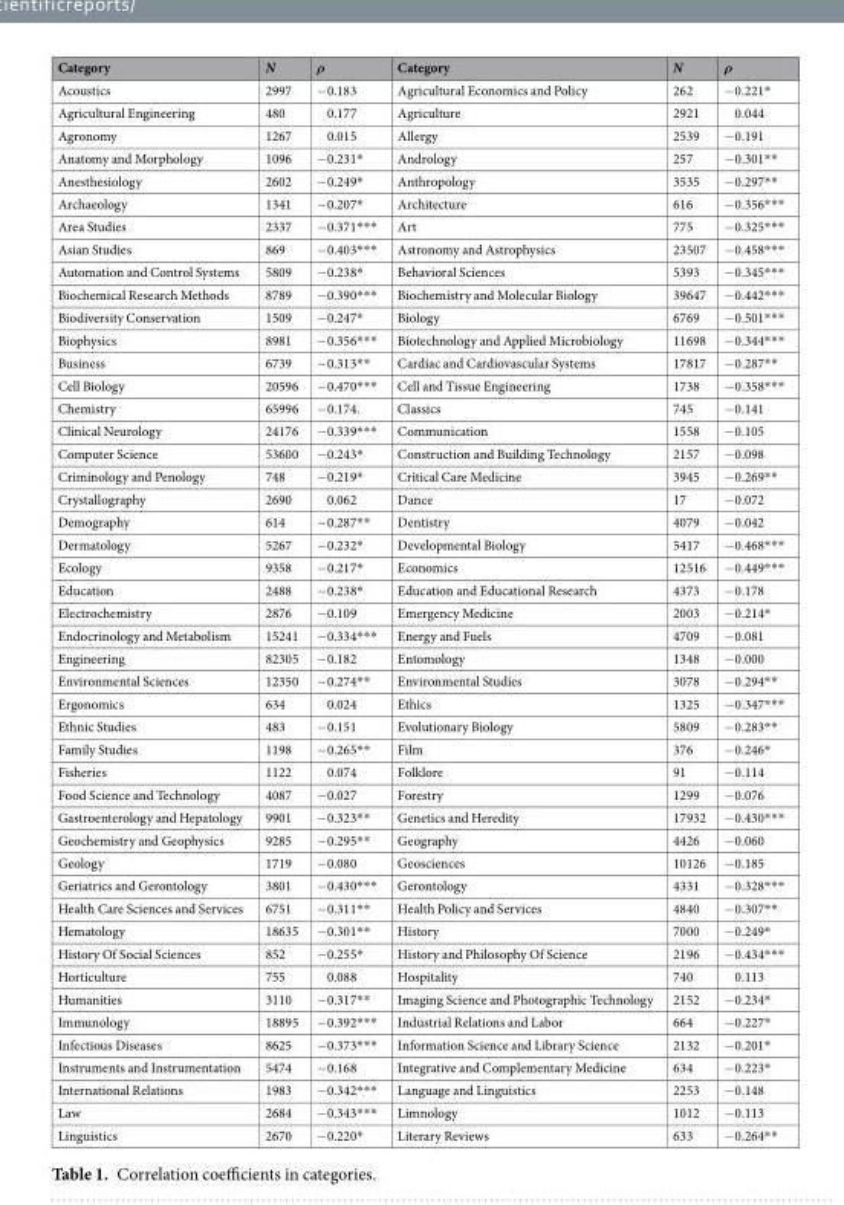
<table><thead><tr><td>Category</td><td>N</td><td>ρ</td><td>Category</td><td>N</td><td>ρ</td></tr></thead><tbody><tr><td>Acoustics</td><td>2997</td><td>−0.183</td><td>Agricultural Economics and Policy</td><td>262</td><td>−0.221*</td></tr><tr><td>Agricultural Engineering</td><td>480</td><td>0.177</td><td>Agriculture</td><td>2921</td><td>0.044</td></tr><tr><td>Agronomy</td><td>1267</td><td>0.015</td><td>Allergy</td><td>2539</td><td>−0.191</td></tr><tr><td>Anatomy and Morphology</td><td>1096</td><td>−0.231*</td><td>Andrology</td><td>257</td><td>−0.301**</td></tr><tr><td>Anesthesiology</td><td>2602</td><td>−0.249*</td><td>Anthropology</td><td>3535</td><td>−0.297**</td></tr><tr><td>Archaeology</td><td>1341</td><td>−0.207*</td><td>Architecture</td><td>616</td><td>−0.356***</td></tr><tr><td>Area Studies</td><td>2337</td><td>−0.371***</td><td>Art</td><td>775</td><td>−0.325***</td></tr><tr><td>Asian Studies</td><td>869</td><td>−0.403***</td><td>Astronomy and Astrophysics</td><td>23507</td><td>−0.458***</td></tr><tr><td>Automation and Control Systems</td><td>5809</td><td>−0.238*</td><td>Behavioral Sciences</td><td>5393</td><td>−0.345***</td></tr><tr><td>Biochemical Research Methods</td><td>8789</td><td>−0.390***</td><td>Biochemistry and Molecular Biology</td><td>39647</td><td>−0.442***</td></tr><tr><td>Biodiversity Conservation</td><td>1509</td><td>−0.247*</td><td>Biology</td><td>6769</td><td>−0.501***</td></tr><tr><td>Biophysics</td><td>8981</td><td>−0.356***</td><td>Biotechnology and Applied Microbiology</td><td>11698</td><td>−0.344***</td></tr><tr><td>Business</td><td>6739</td><td>−0.313**</td><td>Cardiac and Cardiovascular Systems</td><td>17817</td><td>−0.287**</td></tr><tr><td>Cell Biology</td><td>20596</td><td>−0.470***</td><td>Cell and Tissue Engineering</td><td>1738</td><td>−0.358***</td></tr><tr><td>Chemistry</td><td>65996</td><td>−0.174.</td><td>Classics</td><td>745</td><td>−0.141</td></tr><tr><td>Clinical Neurology</td><td>24176</td><td>−0.339***</td><td>Communication</td><td>1558</td><td>−0.105</td></tr><tr><td>Computer Science</td><td>53600</td><td>−0.243*</td><td>Construction and Building Technology</td><td>2157</td><td>−0.098</td></tr><tr><td>Criminology and Penology</td><td>748</td><td>−0.219*</td><td>Critical Care Medicine</td><td>3945</td><td>−0.269**</td></tr><tr><td>Crystallography</td><td>2690</td><td>0.062</td><td>Dance</td><td>17</td><td>−0.072</td></tr><tr><td>Demography</td><td>614</td><td>−0.287**</td><td>Dentistry</td><td>4079</td><td>−0.042</td></tr><tr><td>Dermatology</td><td>5267</td><td>−0.232*</td><td>Developmental Biology</td><td>5417</td><td>−0.468***</td></tr><tr><td>Ecology</td><td>9358</td><td>−0.217*</td><td>Economics</td><td>12516</td><td>−0.449***</td></tr><tr><td>Education</td><td>2488</td><td>−0.238*</td><td>Education and Educational Research</td><td>4373</td><td>−0.178</td></tr><tr><td>Electrochemistry</td><td>2876</td><td>−0.109</td><td>Emergency Medicine</td><td>2003</td><td>−0.214*</td></tr><tr><td>Endocrinology and Metabolism</td><td>15241</td><td>−0.334***</td><td>Energy and Fuels</td><td>4709</td><td>−0.081</td></tr><tr><td>Engineering</td><td>82305</td><td>−0.182</td><td>Entomology</td><td>1348</td><td>−0.000</td></tr><tr><td>Environmental Sciences</td><td>12350</td><td>−0.274**</td><td>Environmental Studies</td><td>3078</td><td>−0.294**</td></tr><tr><td>Ergonomics</td><td>634</td><td>0.024</td><td>Ethics</td><td>1325</td><td>−0.347***</td></tr><tr><td>Ethnic Studies</td><td>483</td><td>−0.151</td><td>Evolutionary Biology</td><td>5809</td><td>−0.283**</td></tr><tr><td>Family Studies</td><td>1198</td><td>−0.265**</td><td>Film</td><td>376</td><td>−0.246*</td></tr><tr><td>Fisheries</td><td>1122</td><td>0.074</td><td>Folklore</td><td>91</td><td>−0.114</td></tr><tr><td>Food Science and Technology</td><td>4087</td><td>−0.027</td><td>Forestry</td><td>1299</td><td>−0.076</td></tr><tr><td>Gastroenterology and Hepatology</td><td>9901</td><td>−0.323**</td><td>Genetics and Heredity</td><td>17932</td><td>−0.430***</td></tr><tr><td>Geochemistry and Geophysics</td><td>9285</td><td>−0.295**</td><td>Geography</td><td>4426</td><td>−0.060</td></tr><tr><td>Geology</td><td>1719</td><td>−0.080</td><td>Geosciences</td><td>10126</td><td>−0.185</td></tr><tr><td>Geriatrics and Gerontology</td><td>3801</td><td>−0.430***</td><td>Gerontology</td><td>4331</td><td>−0.328***</td></tr><tr><td>Health Care Sciences and Services</td><td>6751</td><td>−0.311**</td><td>Health Policy and Services</td><td>4840</td><td>−0.307**</td></tr><tr><td>Hematology</td><td>18635</td><td>−0.301**</td><td>History</td><td>7000</td><td>−0.249*</td></tr><tr><td>History Of Social Sciences</td><td>852</td><td>−0.255*</td><td>History and Philosophy Of Science</td><td>2196</td><td>−0.434***</td></tr><tr><td>Horticulture</td><td>755</td><td>0.088</td><td>Hospitality</td><td>740</td><td>0.113</td></tr><tr><td>Humanities</td><td>3110</td><td>−0.317**</td><td>Imaging Science and Photographic Technology</td><td>2152</td><td>−0.234*</td></tr><tr><td>Immunology</td><td>18895</td><td>−0.392***</td><td>Industrial Relations and Labor</td><td>664</td><td>−0.227*</td></tr><tr><td>Infectious Diseases</td><td>8625</td><td>−0.373***</td><td>Information Science and Library Science</td><td>2132</td><td>−0.201*</td></tr><tr><td>Instruments and Instrumentation</td><td>5474</td><td>−0.168</td><td>Integrative and Complementary Medicine</td><td>634</td><td>−0.223*</td></tr><tr><td>International Relations</td><td>1983</td><td>−0.342***</td><td>Language and Linguistics</td><td>2253</td><td>−0.148</td></tr><tr><td>Law</td><td>2684</td><td>−0.343***</td><td>Limnology</td><td>1012</td><td>−0.113</td></tr><tr><td>Linguistics</td><td>2670</td><td>−0.220*</td><td>Literary Reviews</td><td>633</td><td>−0.264**</td></tr></tbody></table>